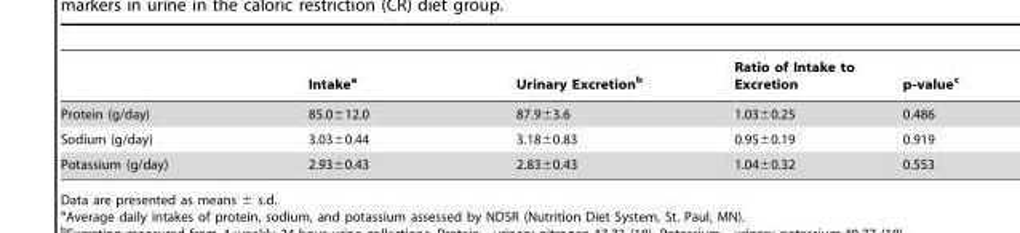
<table><thead><tr><td></td><td>Intake<sup>a</sup></td><td>Urinary Excretion<sup>b</sup></td><td>Ratio of Intake to Excretion</td><td>p-value<sup>c</sup></td></tr></thead><tbody><tr><td>Protein (g/day)</td><td>85.0±12.0</td><td>87.9±3.6</td><td>1.03±0.25</td><td>0.486</td></tr><tr><td>Sodium (g/day)</td><td>3.03±0.44</td><td>3.18±0.83</td><td>0.95±0.19</td><td>0.919</td></tr><tr><td>Potassium (g/day)</td><td>2.93±0.43</td><td>2.83±0.43</td><td>1.04±0.32</td><td>0.553</td></tr></tbody></table>